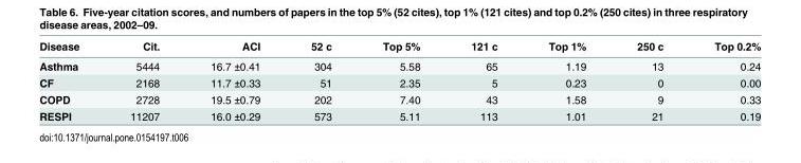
<table><thead><tr><td>Disease</td><td>Cit.</td><td>ACI</td><td>52 c</td><td>Top 5%</td><td>121 c</td><td>Top 1%</td><td>250 c</td><td>Top 0.2%</td></tr></thead><tbody><tr><td>Asthma</td><td>5444</td><td>16.7 ±0.41</td><td>304</td><td>5.58</td><td>65</td><td>1.19</td><td>13</td><td>0.24</td></tr><tr><td>CF</td><td>2168</td><td>11.7 ±0.33</td><td>51</td><td>2.35</td><td>5</td><td>0.23</td><td>0</td><td>0.00</td></tr><tr><td>COPD</td><td>2728</td><td>19.5 ±0.79</td><td>202</td><td>7.40</td><td>43</td><td>1.58</td><td>9</td><td>0.33</td></tr><tr><td>RESPI</td><td>11207</td><td>16.0 ±0.29</td><td>573</td><td>5.11</td><td>113</td><td>1.01</td><td>21</td><td>0.19</td></tr></tbody></table>